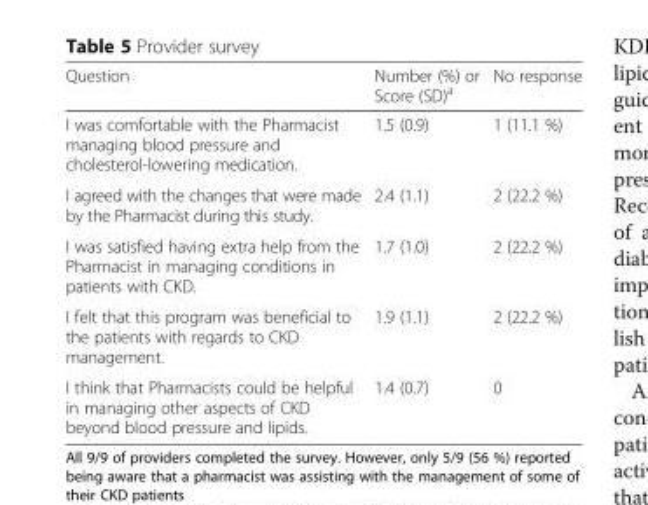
<table><thead><tr><td>Question</td><td>Number (%) or Score (SD)<sup>a</sup></td><td>No response</td></tr></thead><tbody><tr><td>I was comfortable with the Pharmacist managing blood pressure and cholesterol-lowering medication.</td><td>1.5 (0.9)</td><td>1 (11.1 %)</td></tr><tr><td>I agreed with the changes that were made by the Pharmacist during this study.</td><td>2.4 (1.1)</td><td>2 (22.2 %)</td></tr><tr><td>I was satisfied having extra help from the Pharmacist in managing conditions in patients with CKD.</td><td>1.7 (1.0)</td><td>2 (22.2 %)</td></tr><tr><td>I felt that this program was beneficial to the patients with regards to CKD management.</td><td>1.9 (1.1)</td><td>2 (22.2 %)</td></tr><tr><td>I think that Pharmacists could be helpful in managing other aspects of CKD beyond blood pressure and lipids.</td><td>1.4 (0.7)</td><td>0</td></tr></tbody></table>